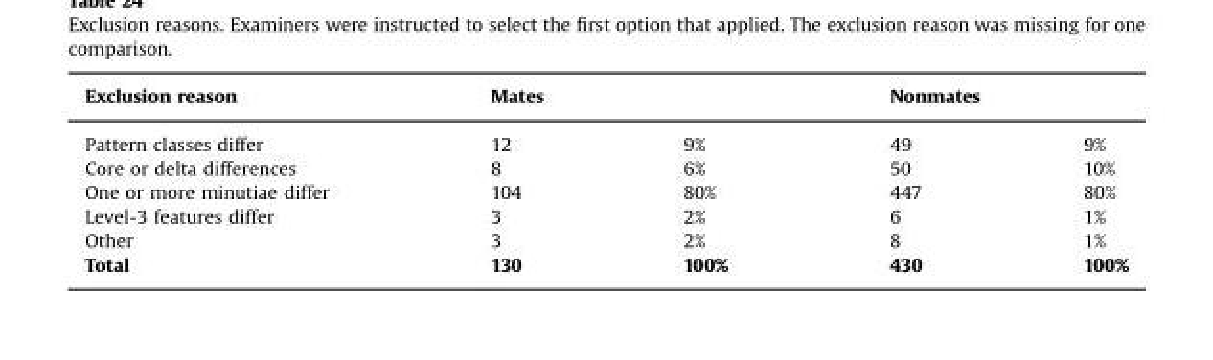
<table><thead><tr><td rowspan="2">Exclusion reason Pattern classes differ</td><td colspan="2">Mates</td><td colspan="2">Nonmates</td></tr><tr><td>12</td><td>9%</td><td>49</td><td>9%</td></tr></thead><tbody><tr><td>Core or delta differences</td><td>8</td><td>6%</td><td>50</td><td>10%</td></tr><tr><td>One or more minutiae differ</td><td>104</td><td>80%</td><td>447</td><td>80%</td></tr><tr><td>Level-3 features differ</td><td>3</td><td>2%</td><td>6</td><td>1%</td></tr><tr><td>Other</td><td>3</td><td>2%</td><td>8</td><td>1%</td></tr><tr><td>Total</td><td>130</td><td>100%</td><td>430</td><td>100%</td></tr></tbody></table>